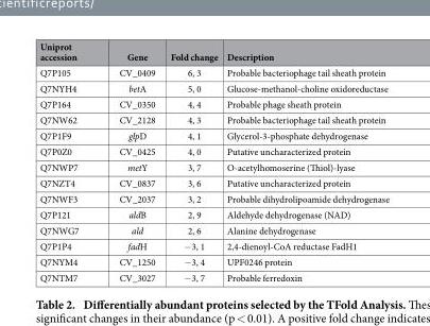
<table><thead><tr><td>Uniprot accession</td><td>Gene</td><td>Fold change</td><td>Description</td></tr></thead><tbody><tr><td>Q7P105</td><td>CV_0409</td><td>6, 3</td><td>Probable bacteriophage tail sheath protein</td></tr><tr><td>Q7NYH4</td><td>betA</td><td>5, 0</td><td>Glucose-methanol-choline oxidoreductase</td></tr><tr><td>Q7P164</td><td>CV_0350</td><td>4, 4</td><td>Probable phage sheath protein</td></tr><tr><td>Q7NW62</td><td>CV_2128</td><td>4, 3</td><td>Probable bacteriophage tail sheath protein</td></tr><tr><td>Q7P1F9</td><td>glpD</td><td>4, 1</td><td>Glycerol-3-phosphate dehydrogenase</td></tr><tr><td>Q7P0Z0</td><td>CV_0425</td><td>4, 0</td><td>Putative uncharacterized protein</td></tr><tr><td>Q7NWP7</td><td>metY</td><td>3, 7</td><td>O-acetylhomoserine (Thiol)-lyase</td></tr><tr><td>Q7NZT4</td><td>CV_0837</td><td>3, 6</td><td>Putative uncharacterized protein</td></tr><tr><td>Q7NWF3</td><td>CV_2037</td><td>3, 2</td><td>Probable dihydrolipoamide dehydrogenase</td></tr><tr><td>Q7P121</td><td>aldB</td><td>2, 9</td><td>Aldehyde dehydrogenase (NAD)</td></tr><tr><td>Q7NWG7</td><td>ald</td><td>2, 6</td><td>Alanine dehydrogenase</td></tr><tr><td>Q7P1P4</td><td>fadH</td><td>− 3, 1</td><td>2,4-dienoyl-CoA reductase FadH1</td></tr><tr><td>Q7NYM4</td><td>CV_1250</td><td>− 3, 4</td><td>UPF0246 protein</td></tr><tr><td>Q7NTM7</td><td>CV_3027</td><td>− 3, 7</td><td>Probable ferredoxin</td></tr></tbody></table>